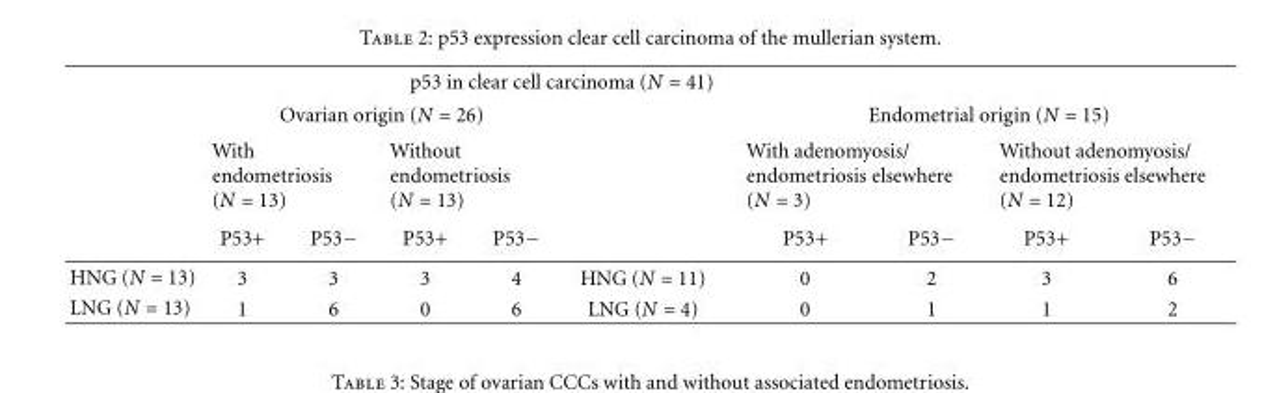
<table><thead><tr><td rowspan="4"></td><td></td><td></td><td colspan="3">p53 in clear cell carcinoma (N = 41)</td><td></td><td></td><td></td><td></td></tr><tr><td colspan="4">Ovarian origin (N = 26)</td><td rowspan="3"></td><td colspan="4">Endometrial origin (N = 15)</td></tr><tr><td colspan="2">With endometriosis (N = 13)</td><td colspan="2">Without endometriosis (N = 13)</td><td colspan="2">With adenomyosis/ endometriosis elsewhere (N = 3)</td><td colspan="2">Without adenomyosis/ endometriosis elsewhere (N = 12)</td></tr><tr><td>P53+</td><td>P53−</td><td>P53+</td><td>P53−</td><td>P53+</td><td>P53−</td><td>P53+</td><td>P53−</td></tr></thead><tbody><tr><td>HNG (N = 13)</td><td>3</td><td>3</td><td>3</td><td>4</td><td>HNG (N = 11)</td><td>0</td><td>2</td><td>3</td><td>6</td></tr><tr><td>LNG (N = 13)</td><td>1</td><td>6</td><td>0</td><td>6</td><td>LNG (N = 4)</td><td>0</td><td>1</td><td>1</td><td>2</td></tr></tbody></table>